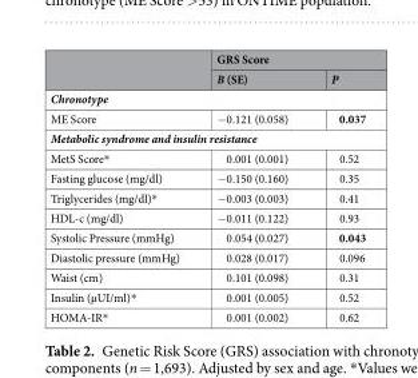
<table><thead><tr><td rowspan="2"></td><td colspan="2">GRS Score</td></tr><tr><td>B (SE)</td><td>P</td></tr></thead><tbody><tr><td colspan="3">Chronotype</td></tr><tr><td>ME Score</td><td>−0.121 (0.058)</td><td>0.037</td></tr><tr><td colspan="3">Metabolic syndrome and insulin resistance</td></tr><tr><td>MetS Score*</td><td>0.001 (0.001)</td><td>0.52</td></tr><tr><td>Fasting glucose (mg/dl)</td><td>−0.150 (0.160)</td><td>0.35</td></tr><tr><td>Triglycerides (mg/dl)*</td><td>−0.003 (0.003)</td><td>0.41</td></tr><tr><td>HDL-c (mg/dl)</td><td>−0.011 (0.122)</td><td>0.93</td></tr><tr><td>Systolic Pressure (mmHg)</td><td>0.054 (0.027)</td><td>0.043</td></tr><tr><td>Diastolic pressure (mmHg)</td><td>0.028 (0.017)</td><td>0.096</td></tr><tr><td>Waist (cm)</td><td>0.101 (0.098)</td><td>0.31</td></tr><tr><td>Insulin (µUI/ml)*</td><td>0.001 (0.005)</td><td>0.52</td></tr><tr><td>HOMA-IR*</td><td>0.001 (0.002)</td><td>0.62</td></tr></tbody></table>